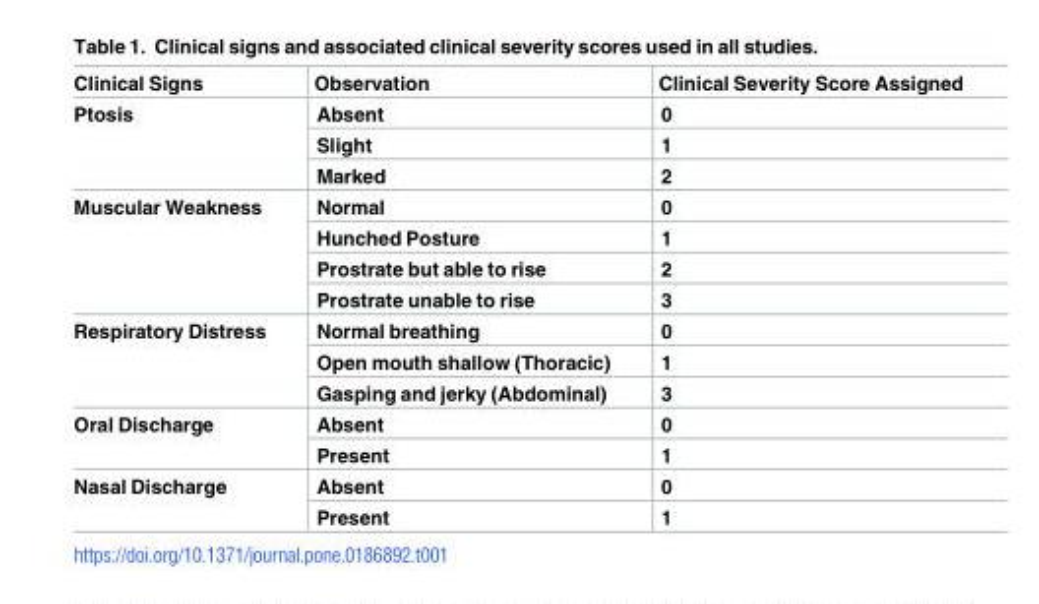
<table><thead><tr><td>Clinical Signs</td><td>Observation</td><td>Clinical Severity Score Assigned</td></tr></thead><tbody><tr><td rowspan="3">Ptosis</td><td>Absent</td><td>0</td></tr><tr><td>Slight</td><td>1</td></tr><tr><td>Marked</td><td>2</td></tr><tr><td rowspan="4">Muscular Weakness</td><td>Normal</td><td>0</td></tr><tr><td>Hunched Posture</td><td>1</td></tr><tr><td>Prostrate but able to rise</td><td>2</td></tr><tr><td>Prostrate unable to rise</td><td>3</td></tr><tr><td rowspan="3">Respiratory Distress</td><td>Normal breathing</td><td>0</td></tr><tr><td>Open mouth shallow (Thoracic)</td><td>1</td></tr><tr><td>Gasping and jerky (Abdominal)</td><td>3</td></tr><tr><td rowspan="2">Oral Discharge</td><td>Absent</td><td>0</td></tr><tr><td>Present</td><td>1</td></tr><tr><td rowspan="2">Nasal Discharge</td><td>Absent</td><td>0</td></tr><tr><td>Present</td><td>1</td></tr></tbody></table>